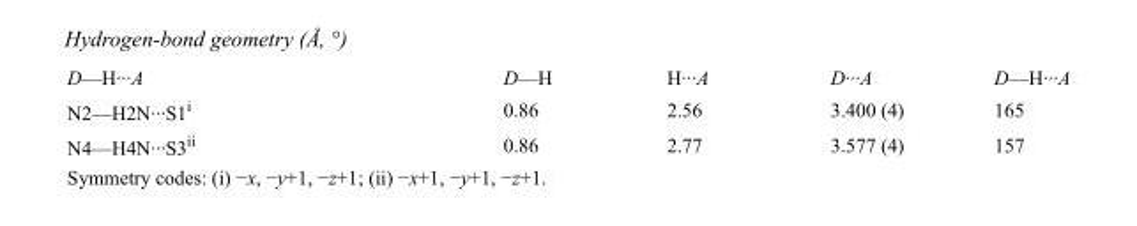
<table><tbody><tr><td>D—H···A</td><td>D—H</td><td>H···A</td><td>D···A</td><td>D—H···A</td></tr><tr><td>N2—H2N···S1<sup>i</sup></td><td>0.86</td><td>2.56</td><td>3.400 (4)</td><td>165</td></tr><tr><td>N4—H4N···S3<sup>ii</sup></td><td>0.86</td><td>2.77</td><td>3.577 (4)</td><td>157</td></tr></tbody></table>